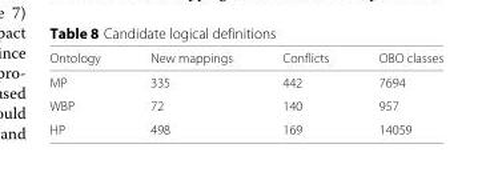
<table><thead><tr><td>Ontology</td><td>New mappings</td><td>Conflicts</td><td>OBO classes</td></tr></thead><tbody><tr><td>MP</td><td>335</td><td>442</td><td>7694</td></tr><tr><td>WBP</td><td>72</td><td>140</td><td>957</td></tr><tr><td>HP</td><td>498</td><td>169</td><td>14059</td></tr></tbody></table>